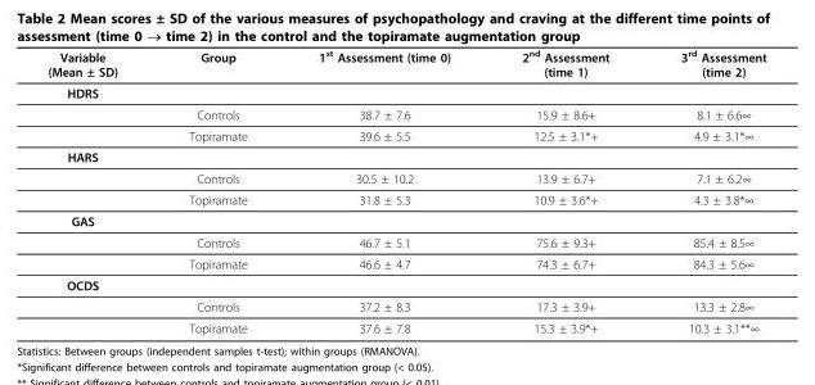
<table><thead><tr><td>Variable (Mean ± SD)</td><td>Group</td><td>1<sup>st</sup> Assessment (time 0)</td><td>2<sup>nd</sup> Assessment (time 1)</td><td>3<sup>rd</sup> Assessment (time 2)</td></tr></thead><tbody><tr><td colspan="5">HDRS</td></tr><tr><td></td><td>Controls</td><td>38.7 ± 7.6</td><td>15.9 ± 8.6+</td><td>8.1 ± 6.6∞</td></tr><tr><td></td><td>Topiramate</td><td>39.6 ± 5.5</td><td>12.5 ± 3.1*+</td><td>4.9 ± 3.1*∞</td></tr><tr><td colspan="5">HARS</td></tr><tr><td></td><td>Controls</td><td>30.5 ± 10.2</td><td>13.9 ± 6.7+</td><td>7.1 ± 6.2∞</td></tr><tr><td></td><td>Topiramate</td><td>31.8 ± 5.3</td><td>10.9 ± 3.6*+</td><td>4.3 ± 3.8*∞</td></tr><tr><td colspan="5">GAS</td></tr><tr><td></td><td>Controls</td><td>46.7 ± 5.1</td><td>75.6 ± 9.3+</td><td>85.4 ± 8.5∞</td></tr><tr><td></td><td>Topiramate</td><td>46.6 ± 4.7</td><td>74.3 ± 6.7+</td><td>84.3 ± 5.6∞</td></tr><tr><td colspan="5">OCDS</td></tr><tr><td></td><td>Controls</td><td>37.2 ± 8.3</td><td>17.3 ± 3.9+</td><td>13.3 ± 2.8∞</td></tr><tr><td></td><td>Topiramate</td><td>37.6 ± 7.8</td><td>15.3 ± 3.9*+</td><td>10.3 ± 3.1**∞</td></tr></tbody></table>